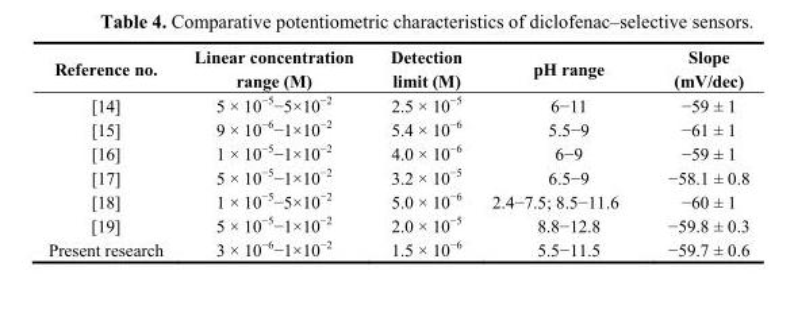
<table><thead><tr><td>Reference no.</td><td>Linear concentration range (M)</td><td>Detection limit (M)</td><td>pH range</td><td>Slope (mV/dec)</td></tr></thead><tbody><tr><td>[14]</td><td>5 × 10<sup>−5</sup>−5×10<sup>−2</sup></td><td>2.5 × 10<sup>−5</sup></td><td>6−11</td><td>−59 ± 1</td></tr><tr><td>[15]</td><td>9 × 10<sup>−6</sup>−1×10<sup>−2</sup></td><td>5.4 × 10<sup>−6</sup></td><td>5.5−9</td><td>−61 ± 1</td></tr><tr><td>[16]</td><td>1 × 10<sup>−5</sup>−1×10<sup>−2</sup></td><td>4.0 × 10<sup>−6</sup></td><td>6−9</td><td>−59 ± 1</td></tr><tr><td>[17]</td><td>5 × 10<sup>−5</sup>−1×10<sup>−2</sup></td><td>3.2 × 10<sup>−5</sup></td><td>6.5−9</td><td>−58.1 ± 0.8</td></tr><tr><td>[18]</td><td>1 × 10<sup>−5</sup>−5×10<sup>−2</sup></td><td>5.0 × 10<sup>−6</sup></td><td>2.4−7.5; 8.5−11.6</td><td>−60 ± 1</td></tr><tr><td>[19]</td><td>5 × 10<sup>−5</sup>−1×10<sup>−2</sup></td><td>2.0 × 10<sup>−5</sup></td><td>8.8−12.8</td><td>−59.8 ± 0.3</td></tr><tr><td>Present research</td><td>3 × 10<sup>−6</sup>−1×10<sup>−2</sup></td><td>1.5 × 10<sup>−6</sup></td><td>5.5−11.5</td><td>−59.7 ± 0.6</td></tr></tbody></table>